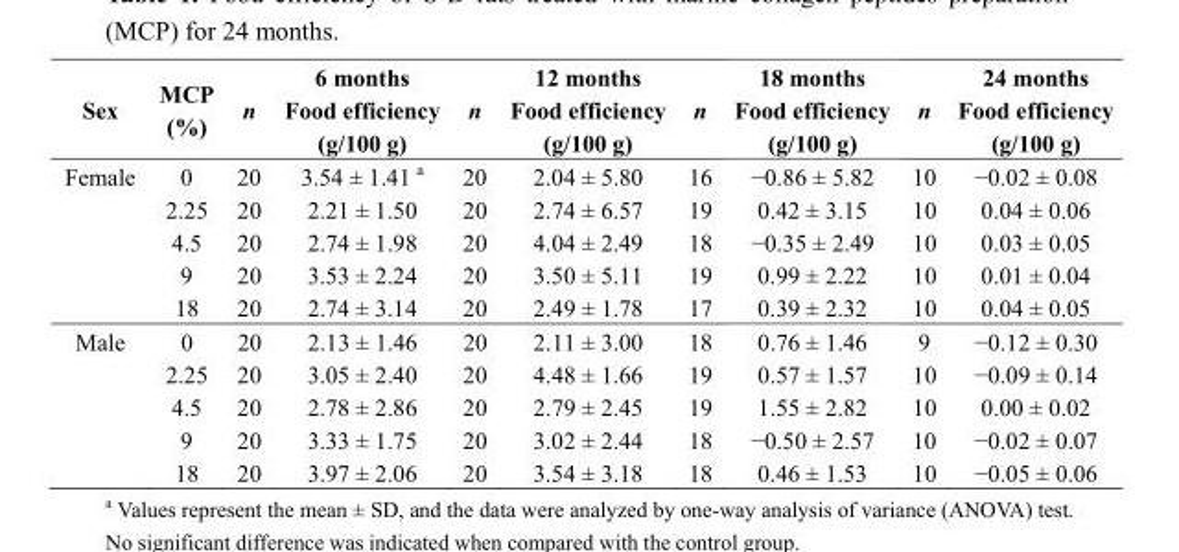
<table><thead><tr><td>Sex</td><td>MCP (%)</td><td>n</td><td>6 months Food efficiency (g/100 g)</td><td>n</td><td>12 months Food efficiency (g/100 g)</td><td>n</td><td>18 months Food efficiency (g/100 g)</td><td>n</td><td>24 months Food efficiency (g/100 g)</td></tr></thead><tbody><tr><td rowspan="5">Female</td><td>0</td><td>20</td><td>3.54 ± 1.41 <sup>a</sup></td><td>20</td><td>2.04 ± 5.80</td><td>16</td><td>−0.86 ± 5.82</td><td>10</td><td>−0.02 ± 0.08</td></tr><tr><td>2.25</td><td>20</td><td>2.21 ± 1.50</td><td>20</td><td>2.74 ± 6.57</td><td>19</td><td>0.42 ± 3.15</td><td>10</td><td>0.04 ± 0.06</td></tr><tr><td>4.5</td><td>20</td><td>2.74 ± 1.98</td><td>20</td><td>4.04 ± 2.49</td><td>18</td><td>−0.35 ± 2.49</td><td>10</td><td>0.03 ± 0.05</td></tr><tr><td>9</td><td>20</td><td>3.53 ± 2.24</td><td>20</td><td>3.50 ± 5.11</td><td>19</td><td>0.99 ± 2.22</td><td>10</td><td>0.01 ± 0.04</td></tr><tr><td>18</td><td>20</td><td>2.74 ± 3.14</td><td>20</td><td>2.49 ± 1.78</td><td>17</td><td>0.39 ± 2.32</td><td>10</td><td>0.04 ± 0.05</td></tr><tr><td rowspan="5">Male</td><td>0</td><td>20</td><td>2.13 ± 1.46</td><td>20</td><td>2.11 ± 3.00</td><td>18</td><td>0.76 ± 1.46</td><td>9</td><td>−0.12 ± 0.30</td></tr><tr><td>2.25</td><td>20</td><td>3.05 ± 2.40</td><td>20</td><td>4.48 ± 1.66</td><td>19</td><td>0.57 ± 1.57</td><td>10</td><td>−0.09 ± 0.14</td></tr><tr><td>4.5</td><td>20</td><td>2.78 ± 2.86</td><td>20</td><td>2.79 ± 2.45</td><td>19</td><td>1.55 ± 2.82</td><td>10</td><td>0.00 ± 0.02</td></tr><tr><td>9</td><td>20</td><td>3.33 ± 1.75</td><td>20</td><td>3.02 ± 2.44</td><td>18</td><td>−0.50 ± 2.57</td><td>10</td><td>−0.02 ± 0.07</td></tr><tr><td>18</td><td>20</td><td>3.97 ± 2.06</td><td>20</td><td>3.54 ± 3.18</td><td>18</td><td>0.46 ± 1.53</td><td>10</td><td>−0.05 ± 0.06</td></tr></tbody></table>